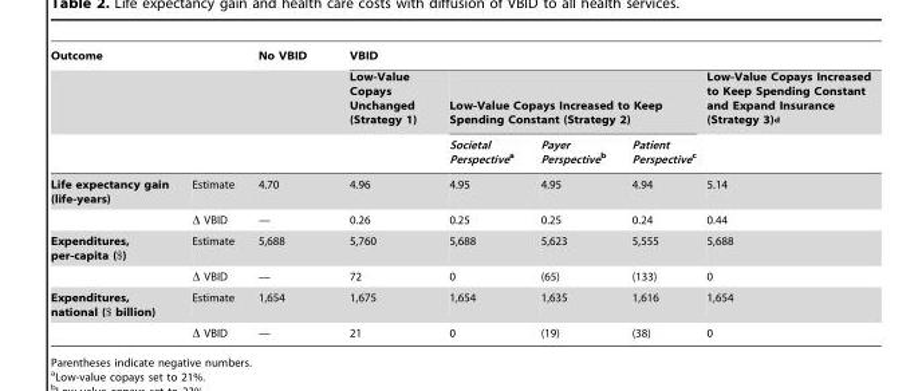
<table><thead><tr><td colspan="2">Outcome</td><td rowspan="3">No VBID</td><td colspan="5">VBID</td></tr><tr><td rowspan="2"></td><td rowspan="2"></td><td rowspan="2">Low-Value Copays Unchanged (Strategy 1)</td><td colspan="3">Low-Value Copays Increased to Keep Spending Constant (Strategy 2)</td><td rowspan="2">Low-Value Copays Increased to Keep Spending Constant and Expand Insurance (Strategy 3)<sup>d</sup></td></tr><tr><td>Societal Perspectivea</td><td>Payer Perspectiveb</td><td>Patient Perspectivec</td></tr></thead><tbody><tr><td rowspan="2">Life expectancy gain (life-years)</td><td>Estimate</td><td>4.70</td><td>4.96</td><td>4.95</td><td>4.95</td><td>4.94</td><td>5.14</td></tr><tr><td>Δ VBID</td><td>—</td><td>0.26</td><td>0.25</td><td>0.25</td><td>0.24</td><td>0.44</td></tr><tr><td rowspan="2">Expenditures, per-capita ($)</td><td>Estimate</td><td>5,688</td><td>5,760</td><td>5,688</td><td>5,623</td><td>5,555</td><td>5,688</td></tr><tr><td>Δ VBID</td><td>—</td><td>72</td><td>0</td><td>(65)</td><td>(133)</td><td>0</td></tr><tr><td rowspan="2">Expenditures, national ($ billion)</td><td>Estimate</td><td>1,654</td><td>1,675</td><td>1,654</td><td>1,635</td><td>1,616</td><td>1,654</td></tr><tr><td>Δ VBID</td><td>—</td><td>21</td><td>0</td><td>(19)</td><td>(38)</td><td>0</td></tr></tbody></table>